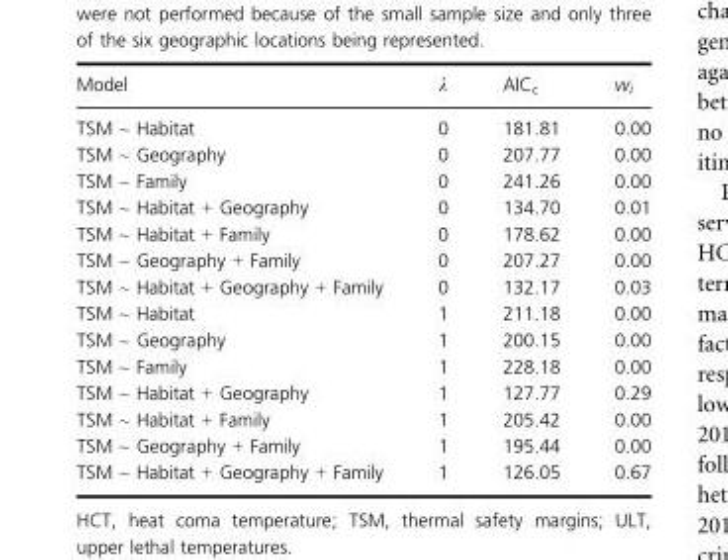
<table><thead><tr><td>Model</td><td>λ</td><td>AIC<sub>c</sub></td><td>w<sub>i</sub></td></tr></thead><tbody><tr><td>TSM ~ Habitat</td><td>0</td><td>181.81</td><td>0.00</td></tr><tr><td>TSM ~ Geography</td><td>0</td><td>207.77</td><td>0.00</td></tr><tr><td>TSM ~ Family</td><td>0</td><td>241.26</td><td>0.00</td></tr><tr><td>TSM ~ Habitat + Geography</td><td>0</td><td>134.70</td><td>0.01</td></tr><tr><td>TSM ~ Habitat + Family</td><td>0</td><td>178.62</td><td>0.00</td></tr><tr><td>TSM ~ Geography + Family</td><td>0</td><td>207.27</td><td>0.00</td></tr><tr><td>TSM ~ Habitat + Geography + Family</td><td>0</td><td>132.17</td><td>0.03</td></tr><tr><td>TSM ~ Habitat</td><td>1</td><td>211.18</td><td>0.00</td></tr><tr><td>TSM ~ Geography</td><td>1</td><td>200.15</td><td>0.00</td></tr><tr><td>TSM ~ Family</td><td>1</td><td>228.18</td><td>0.00</td></tr><tr><td>TSM ~ Habitat + Geography</td><td>1</td><td>127.77</td><td>0.29</td></tr><tr><td>TSM ~ Habitat + Family</td><td>1</td><td>205.42</td><td>0.00</td></tr><tr><td>TSM ~ Geography + Family</td><td>1</td><td>195.44</td><td>0.00</td></tr><tr><td>TSM ~ Habitat + Geography + Family</td><td>1</td><td>126.05</td><td>0.67</td></tr></tbody></table>